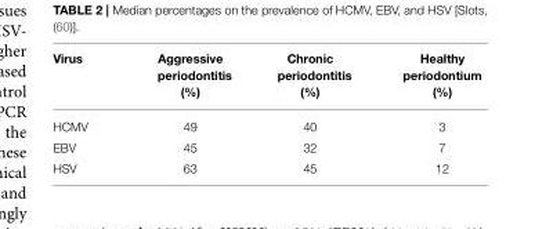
<table><thead><tr><td>Virus</td><td>Aggressive periodontitis (%)</td><td>Chronic periodontitis (%)</td><td>Healthy periodontium (%)</td></tr></thead><tbody><tr><td>HCMV</td><td>49</td><td>40</td><td>3</td></tr><tr><td>EBV</td><td>45</td><td>32</td><td>7</td></tr><tr><td>HSV</td><td>63</td><td>45</td><td>12</td></tr></tbody></table>